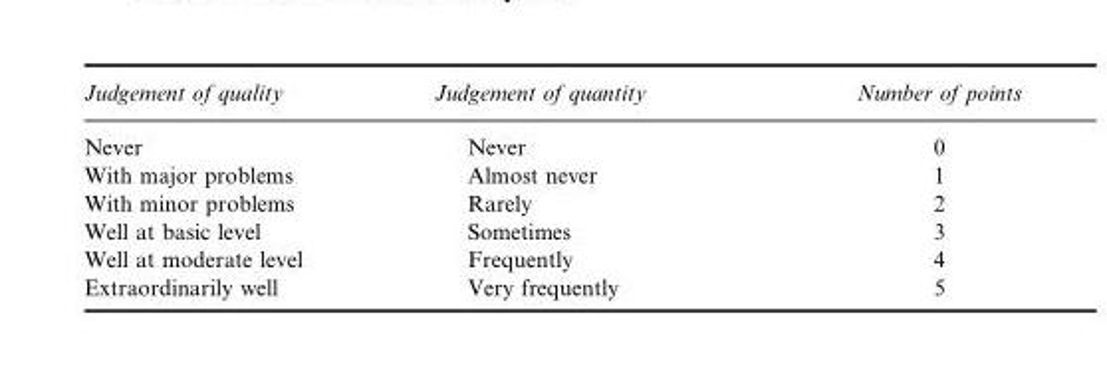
<table><thead><tr><td>Judgement of quality</td><td>Judgement of quantity</td><td>Number of points</td></tr></thead><tbody><tr><td>Never</td><td>Never</td><td>0</td></tr><tr><td>With major problems</td><td>Almost never</td><td>1</td></tr><tr><td>With minor problems</td><td>Rarely</td><td>2</td></tr><tr><td>Well at basic level</td><td>Sometimes</td><td>3</td></tr><tr><td>Well at moderate level</td><td>Frequently</td><td>4</td></tr><tr><td>Extraordinarily well</td><td>Very frequently</td><td>5</td></tr></tbody></table>